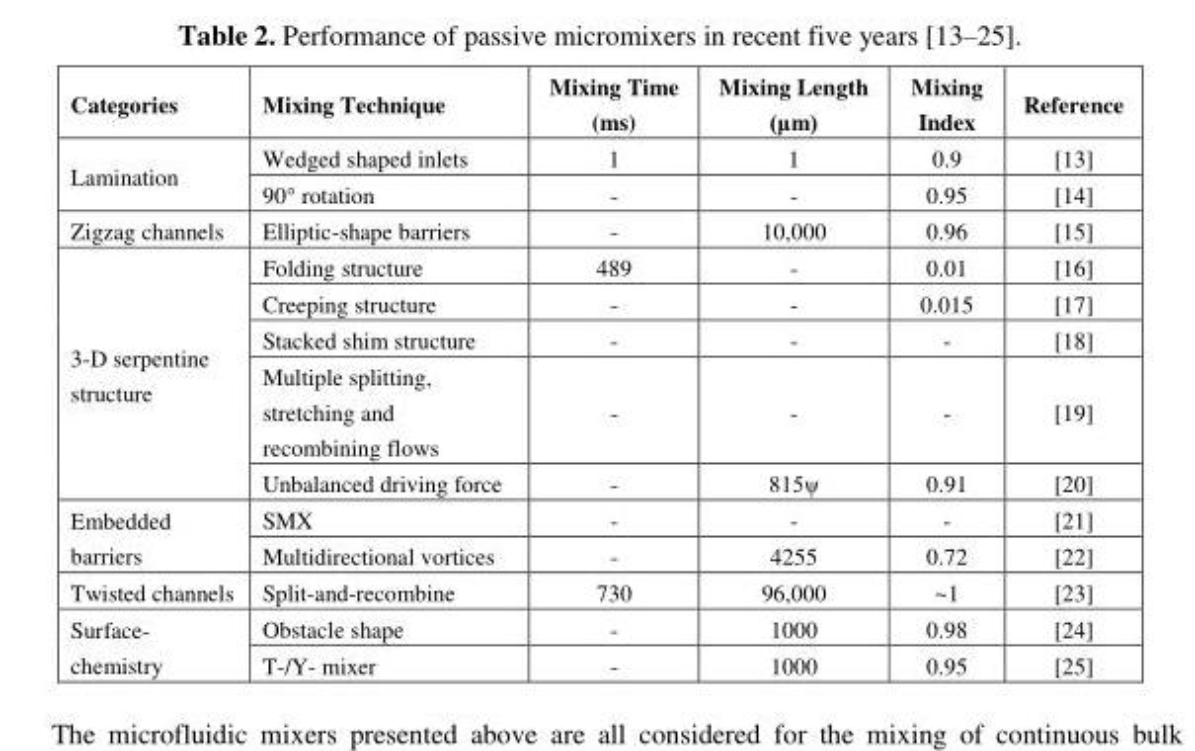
<table><thead><tr><td>Categories</td><td>Mixing Technique</td><td>Mixing Time (ms)</td><td>Mixing Length (μm)</td><td>Mixing Index</td><td>Reference</td></tr></thead><tbody><tr><td rowspan="2">Lamination</td><td>Wedged shaped inlets</td><td>1</td><td>1</td><td>0.9</td><td>[13]</td></tr><tr><td>90° rotation</td><td>-</td><td>-</td><td>0.95</td><td>[14]</td></tr><tr><td>Zigzag channels</td><td>Elliptic-shape barriers</td><td>-</td><td>10,000</td><td>0.96</td><td>[15]</td></tr><tr><td rowspan="5">3-D serpentine structure</td><td>Folding structure</td><td>489</td><td>-</td><td>0.01</td><td>[16]</td></tr><tr><td>Creeping structure</td><td>-</td><td>-</td><td>0.015</td><td>[17]</td></tr><tr><td>Stacked shim structure</td><td>-</td><td>-</td><td>-</td><td>[18]</td></tr><tr><td>Multiple splitting, stretching and recombining flows</td><td>-</td><td>-</td><td>-</td><td>[19]</td></tr><tr><td>Unbalanced driving force</td><td>-</td><td>815ψ</td><td>0.91</td><td>[20]</td></tr><tr><td rowspan="2">Embedded barriers</td><td>SMX</td><td>-</td><td>-</td><td>-</td><td>[21]</td></tr><tr><td>Multidirectional vortices</td><td>-</td><td>4255</td><td>0.72</td><td>[22]</td></tr><tr><td>Twisted channels</td><td>Split-and-recombine</td><td>730</td><td>96,000</td><td>~1</td><td>[23]</td></tr><tr><td rowspan="2">Surface- chemistry</td><td>Obstacle shape</td><td>-</td><td>1000</td><td>0.98</td><td>[24]</td></tr><tr><td>T-/Y- mixer</td><td>-</td><td>1000</td><td>0.95</td><td>[25]</td></tr></tbody></table>